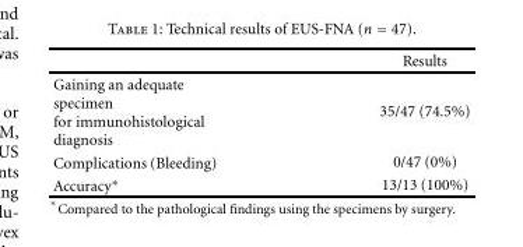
<table><thead><tr><td></td><td>Results</td></tr></thead><tbody><tr><td>Gaining an adequate specimen for immunohistological diagnosis</td><td>35/47 (74.5%)</td></tr><tr><td>Complications (Bleeding)</td><td>0/47 (0%)</td></tr><tr><td>Accuracy∗</td><td>13/13 (100%)</td></tr></tbody></table>